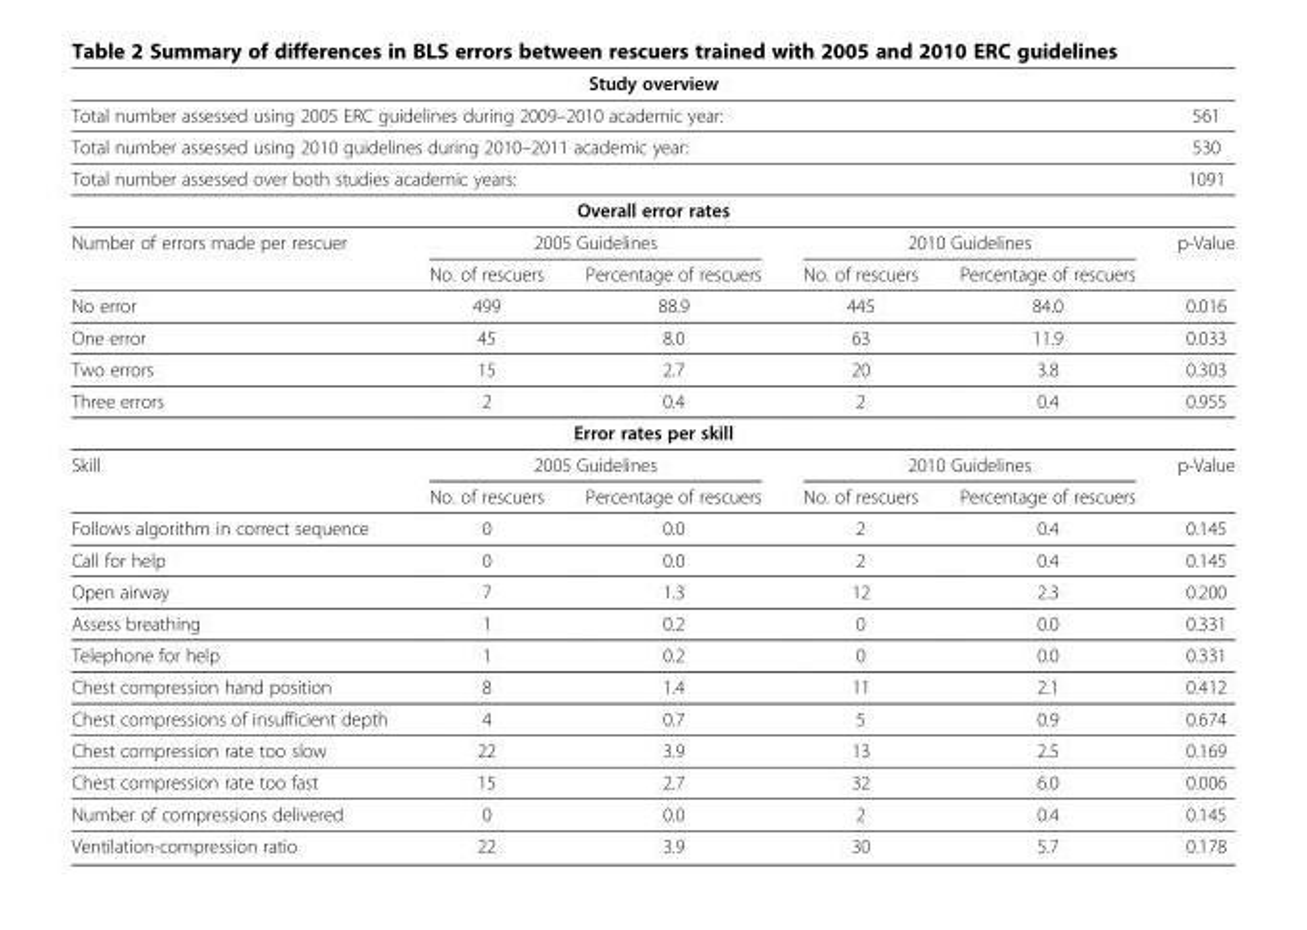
<table><thead><tr><td colspan="6">Study overview</td></tr></thead><tbody><tr><td colspan="5">Total number assessed using 2005 ERC guidelines during 2009–2010 academic year:</td><td>561</td></tr><tr><td colspan="5">Total number assessed using 2010 guidelines during 2010–2011 academic year:</td><td>530</td></tr><tr><td colspan="5">Total number assessed over both studies academic years:</td><td>1091</td></tr><tr><td colspan="6">Overall error rates</td></tr><tr><td rowspan="2">Number of errors made per rescuer</td><td colspan="2">2005 Guidelines</td><td colspan="2">2010 Guidelines</td><td rowspan="2">p-Value</td></tr><tr><td>No. of rescuers</td><td>Percentage of rescuers</td><td>No. of rescuers</td><td>Percentage of rescuers</td></tr><tr><td>No error</td><td>499</td><td>88.9</td><td>445</td><td>84.0</td><td>0.016</td></tr><tr><td>One error</td><td>45</td><td>8.0</td><td>63</td><td>11.9</td><td>0.033</td></tr><tr><td>Two errors</td><td>15</td><td>2.7</td><td>20</td><td>3.8</td><td>0.303</td></tr><tr><td>Three errors</td><td>2</td><td>0.4</td><td>2</td><td>0.4</td><td>0.955</td></tr><tr><td colspan="6">Error rates per skill</td></tr><tr><td rowspan="2">Skill</td><td colspan="2">2005 Guidelines</td><td colspan="2">2010 Guidelines</td><td rowspan="2">p-Value</td></tr><tr><td>No. of rescuers</td><td>Percentage of rescuers</td><td>No. of rescuers</td><td>Percentage of rescuers</td></tr><tr><td>Follows algorithm in correct sequence</td><td>0</td><td>0.0</td><td>2</td><td>0.4</td><td>0.145</td></tr><tr><td>Call for help</td><td>0</td><td>0.0</td><td>2</td><td>0.4</td><td>0.145</td></tr><tr><td>Open airway</td><td>7</td><td>1.3</td><td>12</td><td>2.3</td><td>0.200</td></tr><tr><td>Assess breathing</td><td>1</td><td>0.2</td><td>0</td><td>0.0</td><td>0.331</td></tr><tr><td>Telephone for help</td><td>1</td><td>0.2</td><td>0</td><td>0.0</td><td>0.331</td></tr><tr><td>Chest compression hand position</td><td>8</td><td>1.4</td><td>11</td><td>2.1</td><td>0.412</td></tr><tr><td>Chest compressions of insufficient depth</td><td>4</td><td>0.7</td><td>5</td><td>0.9</td><td>0.674</td></tr><tr><td>Chest compression rate too slow</td><td>22</td><td>3.9</td><td>13</td><td>2.5</td><td>0.169</td></tr><tr><td>Chest compression rate too fast</td><td>15</td><td>2.7</td><td>32</td><td>6.0</td><td>0.006</td></tr><tr><td>Number of compressions delivered</td><td>0</td><td>0.0</td><td>2</td><td>0.4</td><td>0.145</td></tr><tr><td>Ventilation-compression ratio</td><td>22</td><td>3.9</td><td>30</td><td>5.7</td><td>0.178</td></tr></tbody></table>